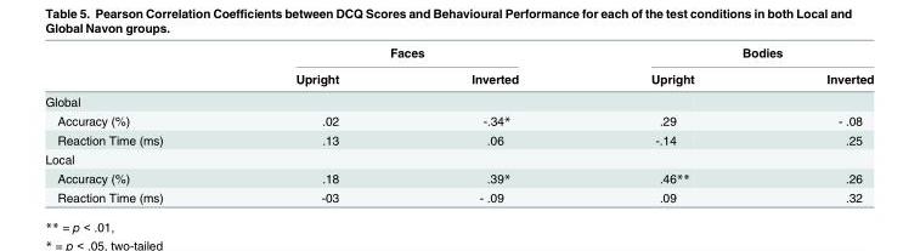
<table><thead><tr><td rowspan="2"></td><td colspan="2">Faces</td><td colspan="2">Bodies</td></tr><tr><td>Upright</td><td>Inverted</td><td>Upright</td><td>Inverted</td></tr></thead><tbody><tr><td colspan="5">Global</td></tr><tr><td>Accuracy (%)</td><td>.02</td><td>-.34*</td><td>.29</td><td>- .08</td></tr><tr><td>Reaction Time (ms)</td><td>.13</td><td>.06</td><td>-.14</td><td>.25</td></tr><tr><td colspan="5">Local</td></tr><tr><td>Accuracy (%)</td><td>.18</td><td>.39*</td><td>.46**</td><td>.26</td></tr><tr><td>Reaction Time (ms)</td><td>-03</td><td>- .09</td><td>.09</td><td>.32</td></tr></tbody></table>